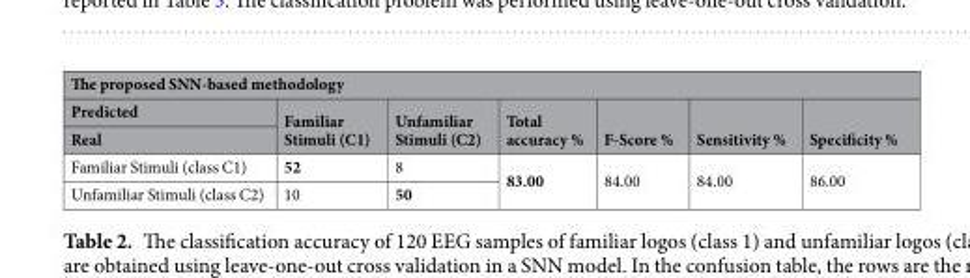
<table><thead><tr><td colspan="7">The proposed SNN-based methodology</td></tr><tr><td rowspan="2">Predicted Real</td><td rowspan="2">Familiar Stimuli (C1)</td><td rowspan="2">Unfamiliar Stimuli (C2)</td><td rowspan="2">Total accuracy %</td><td rowspan="2">F-Score %</td><td rowspan="2">Sensitivity %</td><td rowspan="2">Specificity %</td></tr><tr></tr></thead><tbody><tr><td>Familiar Stimuli (class C1)</td><td>52</td><td>8</td><td rowspan="2">83.00</td><td rowspan="2">84.00</td><td rowspan="2">84.00</td><td rowspan="2">86.00</td></tr><tr><td>Unfamiliar Stimuli (class C2)</td><td>10</td><td>50</td></tr></tbody></table>